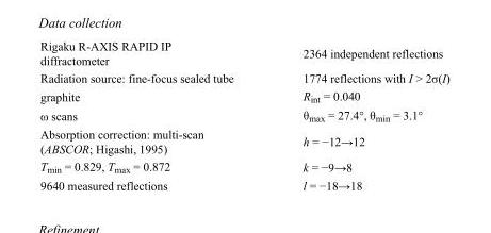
<table><tbody><tr><td>Rigaku R-AXIS RAPID IP diffractometer</td><td>2364 independent reflections</td></tr><tr><td>Radiation source: fine-focus sealed tube</td><td>1774 reflections with I &gt; 2σ(I)</td></tr><tr><td>graphite</td><td>R<sub>int</sub> = 0.040</td></tr><tr><td>ω scans</td><td>θ<sub>max</sub> = 27.4°, θ<sub>min</sub> = 3.1°</td></tr><tr><td>Absorption correction: multi-scan (ABSCOR; Higashi, 1995)</td><td>h = −12→12</td></tr><tr><td>T<sub>min</sub> = 0.829, T<sub>max</sub> = 0.872</td><td>k = −9→8</td></tr><tr><td>9640 measured reflections</td><td>l = −18→18</td></tr></tbody></table>